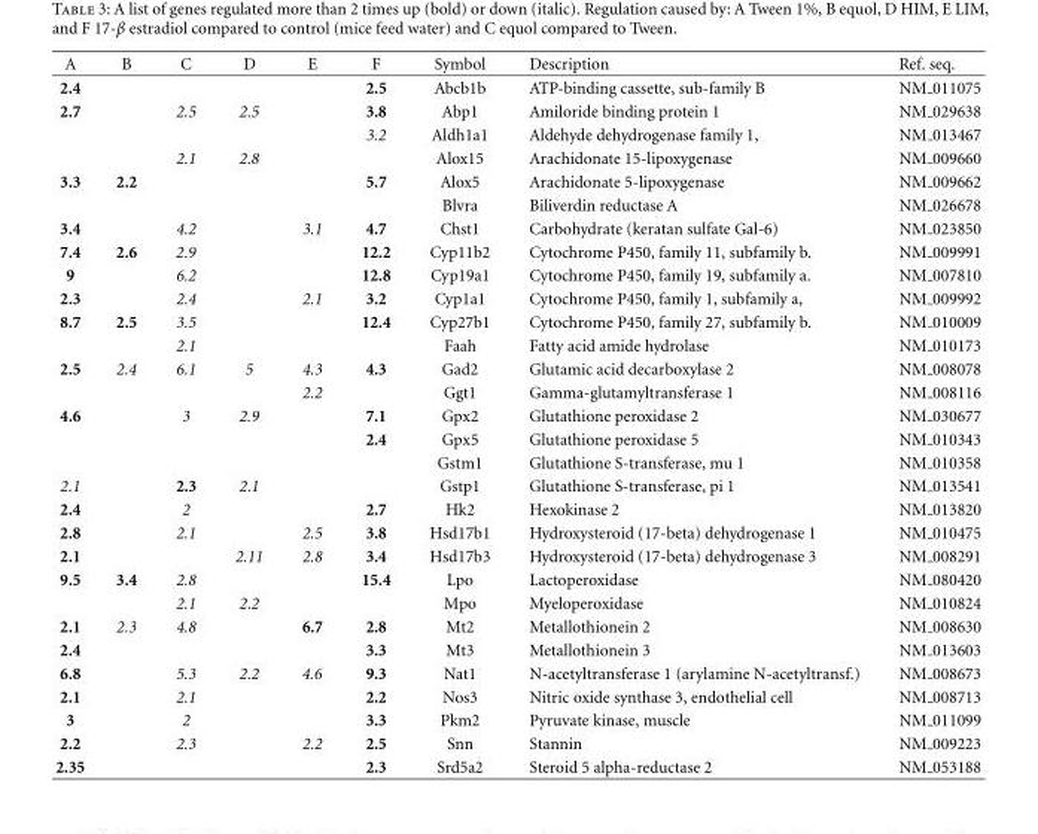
<table><thead><tr><td>A</td><td>B</td><td>C</td><td>D</td><td>E</td><td>F</td><td>Symbol</td><td>Description</td><td>Ref. seq.</td></tr></thead><tbody><tr><td>2.4</td><td></td><td></td><td></td><td></td><td>2.5</td><td>Abcb1b</td><td>ATP-binding cassette, sub-family B</td><td>NM 011075</td></tr><tr><td rowspan="3">2.7</td><td></td><td>2.5</td><td>2.5</td><td></td><td>3.8</td><td>Abp1</td><td>Amiloride binding protein 1</td><td>NM 029638</td></tr><tr><td></td><td></td><td></td><td></td><td>3.2</td><td>Aldh1a1</td><td>Aldehyde dehydrogenase family 1,</td><td>NM 013467</td></tr><tr><td></td><td>2.1</td><td>2.8</td><td></td><td></td><td>Alox15</td><td>Arachidonate 15-lipoxygenase</td><td>NM 009660</td></tr><tr><td rowspan="2">3.3</td><td>2.2</td><td></td><td></td><td></td><td>5.7</td><td>Alox5</td><td>Arachidonate 5-lipoxygenase</td><td>NM 009662</td></tr><tr><td></td><td></td><td></td><td></td><td></td><td>Blvra</td><td>Biliverdin reductase A</td><td>NM 026678</td></tr><tr><td>3.4</td><td></td><td>4.2</td><td></td><td>3.1</td><td>4.7</td><td>Chst1</td><td>Carbohydrate (keratan sulfate Gal-6)</td><td>NM 023850</td></tr><tr><td>7.4</td><td>2.6</td><td>2.9</td><td></td><td></td><td>12.2</td><td>Cyp11b2</td><td>Cytochrome P450, family 11, subfamily b.</td><td>NM 009991</td></tr><tr><td>9</td><td></td><td>6.2</td><td></td><td></td><td>12.8</td><td>Cyp19a1</td><td>Cytochrome P450, family 19, subfamily a.</td><td>NM 007810</td></tr><tr><td>2.3</td><td></td><td>2.4</td><td></td><td>2.1</td><td>3.2</td><td>Cyp1a1</td><td>Cytochrome P450, family 1, subfamily a,</td><td>NM 009992</td></tr><tr><td rowspan="2">8.7</td><td>2.5</td><td>3.5</td><td></td><td></td><td>12.4</td><td>Cyp27b1</td><td>Cytochrome P450, family 27, subfamily b.</td><td>NM 010009</td></tr><tr><td></td><td>2.1</td><td></td><td></td><td></td><td>Faah</td><td>Fatty acid amide hydrolase</td><td>NM 010173</td></tr><tr><td rowspan="2">2.5</td><td>2.4</td><td>6.1</td><td>5</td><td>4.3</td><td>4.3</td><td>Gad2</td><td>Glutamic acid decarboxylase 2</td><td>NM 008078</td></tr><tr><td></td><td></td><td></td><td>2.2</td><td></td><td>Ggt1</td><td>Gamma-glutamyltransferase 1</td><td>NM 008116</td></tr><tr><td rowspan="3">4.6</td><td></td><td>3</td><td>2.9</td><td></td><td>7.1</td><td>Gpx2</td><td>Glutathione peroxidase 2</td><td>NM 030677</td></tr><tr><td></td><td></td><td></td><td></td><td>2.4</td><td>Gpx5</td><td>Glutathione peroxidase 5</td><td>NM 010343</td></tr><tr><td></td><td></td><td></td><td></td><td></td><td>Gstm1</td><td>Glutathione S-transferase, mu 1</td><td>NM 010358</td></tr><tr><td>2.1</td><td></td><td>2.3</td><td>2.1</td><td></td><td></td><td>Gstp1</td><td>Glutathione S-transferase, pi 1</td><td>NM 013541</td></tr><tr><td>2.4</td><td></td><td>2</td><td></td><td></td><td>2.7</td><td>Hk2</td><td>Hexokinase 2</td><td>NM 013820</td></tr><tr><td>2.8</td><td></td><td>2.1</td><td></td><td>2.5</td><td>3.8</td><td>Hsd17b1</td><td>Hydroxysteroid (17-beta) dehydrogenase 1</td><td>NM 010475</td></tr><tr><td>2.1</td><td></td><td></td><td>2.11</td><td>2.8</td><td>3.4</td><td>Hsd17b3</td><td>Hydroxysteroid (17-beta) dehydrogenase 3</td><td>NM 008291</td></tr><tr><td rowspan="2">9.5</td><td>3.4</td><td>2.8</td><td></td><td></td><td>15.4</td><td>Lpo</td><td>Lactoperoxidase</td><td>NM 080420</td></tr><tr><td></td><td>2.1</td><td>2.2</td><td></td><td></td><td>Mpo</td><td>Myeloperoxidase</td><td>NM 010824</td></tr><tr><td>2.1</td><td>2.3</td><td>4.8</td><td></td><td>6.7</td><td>2.8</td><td>Mt2</td><td>Metallothionein 2</td><td>NM 008630</td></tr><tr><td>2.4</td><td></td><td></td><td></td><td></td><td>3.3</td><td>Mt3</td><td>Metallothionein 3</td><td>NM 013603</td></tr><tr><td>6.8</td><td></td><td>5.3</td><td>2.2</td><td>4.6</td><td>9.3</td><td>Nat1</td><td>N-acetyltransferase 1 (arylamine N-acetyltransf.)</td><td>NM 008673</td></tr><tr><td>2.1</td><td></td><td>2.1</td><td></td><td></td><td>2.2</td><td>Nos3</td><td>Nitric oxide synthase 3, endothelial cell</td><td>NM 008713</td></tr><tr><td>3</td><td></td><td>2</td><td></td><td></td><td>3.3</td><td>Pkm2</td><td>Pyruvate kinase, muscle</td><td>NM 011099</td></tr><tr><td>2.2</td><td></td><td>2.3</td><td></td><td>2.2</td><td>2.5</td><td>Snn</td><td>Stannin</td><td>NM 009223</td></tr><tr><td>2.35</td><td></td><td></td><td></td><td></td><td>2.3</td><td>Srd5a2</td><td>Steroid 5 alpha-reductase 2</td><td>NM 053188</td></tr></tbody></table>